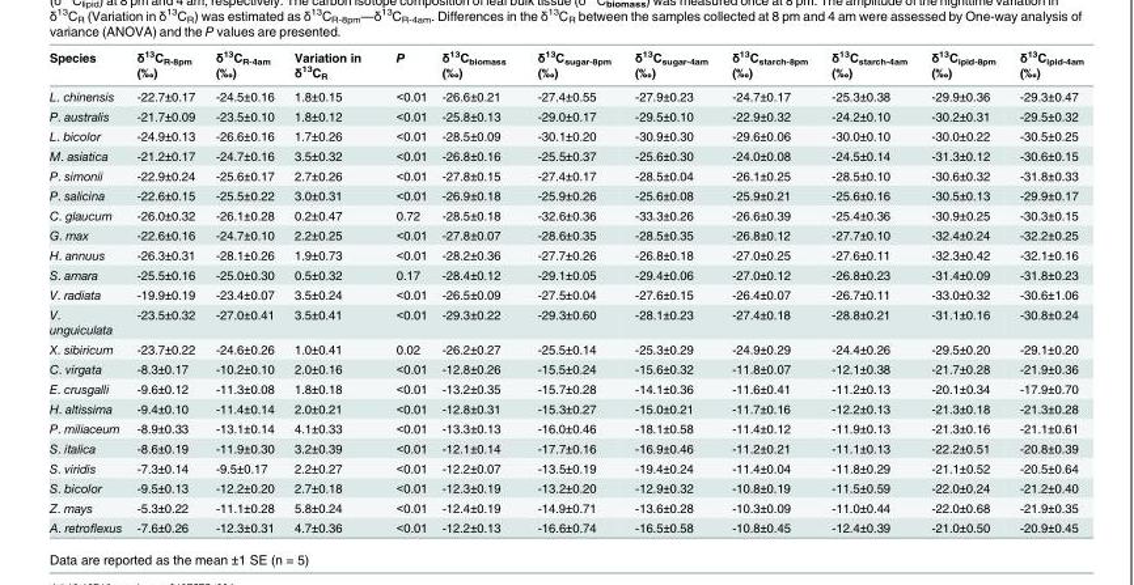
<table><thead><tr><td>Species</td><td>δ<sup>13</sup>C<sub>R-8pm</sub> (‰)</td><td>δ<sup>13</sup>C<sub>R-4am</sub> (‰)</td><td>Variation in δ<sup>13</sup>C<sub>R</sub></td><td>P</td><td>δ<sup>13</sup>C<sub>biomass</sub> (‰)</td><td>δ<sup>13</sup>C<sub>sugar-8pm</sub> (‰)</td><td>δ<sup>13</sup>C<sub>sugar-4am</sub> (‰)</td><td>δ<sup>13</sup>C<sub>starch-8pm</sub> (‰)</td><td>δ<sup>13</sup>C<sub>starch-4am</sub> (‰)</td><td>δ<sup>13</sup>C<sub>ipid-8pm</sub> (‰)</td><td>δ<sup>13</sup>C<sub>ipid-4am</sub> (‰)</td></tr></thead><tbody><tr><td>L. chinensis</td><td>-22.7±0.17</td><td>-24.5±0.16</td><td>1.8±0.15</td><td>&lt;0.01</td><td>-26.6±0.21</td><td>-27.4±0.55</td><td>-27.9±0.23</td><td>-24.7±0.17</td><td>-25.3±0.38</td><td>-29.9±0.36</td><td>-29.3±0.47</td></tr><tr><td>P. australis</td><td>-21.7±0.09</td><td>-23.5±0.10</td><td>1.8±0.12</td><td>&lt;0.01</td><td>-25.8±0.13</td><td>-29.0±0.17</td><td>-29.5±0.10</td><td>-22.9±0.32</td><td>-24.2±0.10</td><td>-30.2±0.31</td><td>-29.5±0.32</td></tr><tr><td>L. bicolor</td><td>-24.9±0.13</td><td>-26.6±0.16</td><td>1.7±0.26</td><td>&lt;0.01</td><td>-28.5±0.09</td><td>-30.1±0.20</td><td>-30.9±0.30</td><td>-29.6±0.06</td><td>-30.0±0.10</td><td>-30.0±0.22</td><td>-30.5±0.25</td></tr><tr><td>M. asiatica</td><td>-21.2±0.17</td><td>-24.7±0.16</td><td>3.5±0.32</td><td>&lt;0.01</td><td>-26.8±0.16</td><td>-25.5±0.37</td><td>-25.6±0.30</td><td>-24.0±0.08</td><td>-24.5±0.14</td><td>-31.3±0.12</td><td>-30.6±0.15</td></tr><tr><td>P. simonii</td><td>-22.9±0.24</td><td>-25.6±0.17</td><td>2.7±0.26</td><td>&lt;0.01</td><td>-27.8±0.15</td><td>-27.4±0.17</td><td>-28.5±0.04</td><td>-26.1±0.25</td><td>-28.5±0.10</td><td>-30.6±0.32</td><td>-31.8±0.33</td></tr><tr><td>P. salicina</td><td>-22.6±0.15</td><td>-25.5±0.22</td><td>3.0±0.31</td><td>&lt;0.01</td><td>-26.9±0.18</td><td>-25.9±0.26</td><td>-25.6±0.08</td><td>-25.9±0.21</td><td>-25.6±0.16</td><td>-30.5±0.13</td><td>-29.9±0.17</td></tr><tr><td>C. glaucum</td><td>-26.0±0.32</td><td>-26.1±0.28</td><td>0.2±0.47</td><td>0.72</td><td>-28.5±0.18</td><td>-32.6±0.36</td><td>-33.3±0.26</td><td>-26.6±0.39</td><td>-25.4±0.36</td><td>-30.9±0.25</td><td>-30.3±0.15</td></tr><tr><td>G. max</td><td>-22.6±0.16</td><td>-24.7±0.10</td><td>2.2±0.25</td><td>&lt;0.01</td><td>-27.8±0.07</td><td>-28.6±0.35</td><td>-28.5±0.35</td><td>-26.8±0.12</td><td>-27.7±0.10</td><td>-32.4±0.24</td><td>-32.2±0.25</td></tr><tr><td>H. annuus</td><td>-26.3±0.31</td><td>-28.1±0.26</td><td>1.9±0.73</td><td>&lt;0.01</td><td>-28.2±0.36</td><td>-27.7±0.26</td><td>-26.8±0.18</td><td>-27.0±0.25</td><td>-27.6±0.11</td><td>-32.3±0.42</td><td>-32.1±0.16</td></tr><tr><td>S. amara</td><td>-25.5±0.16</td><td>-25.0±0.30</td><td>0.5±0.32</td><td>0.17</td><td>-28.4±0.12</td><td>-29.1±0.05</td><td>-29.4±0.06</td><td>-27.0±0.12</td><td>-26.8±0.23</td><td>-31.4±0.09</td><td>-31.8±0.23</td></tr><tr><td>V. radiata</td><td>-19.9±0.19</td><td>-23.4±0.07</td><td>3.5±0.24</td><td>&lt;0.01</td><td>-26.5±0.09</td><td>-27.5±0.04</td><td>-27.6±0.15</td><td>-26.4±0.07</td><td>-26.7±0.11</td><td>-33.0±0.32</td><td>-30.6±1.06</td></tr><tr><td>V. unguiculata</td><td>-23.5±0.32</td><td>-27.0±0.41</td><td>3.5±0.41</td><td>&lt;0.01</td><td>-29.3±0.22</td><td>-29.3±0.60</td><td>-28.1±0.23</td><td>-27.4±0.18</td><td>-28.8±0.21</td><td>-31.1±0.16</td><td>-30.8±0.24</td></tr><tr><td>X. sibiricum</td><td>-23.7±0.22</td><td>-24.6±0.26</td><td>1.0±0.41</td><td>0.02</td><td>-26.2±0.27</td><td>-25.5±0.14</td><td>-25.3±0.29</td><td>-24.9±0.29</td><td>-24.4±0.26</td><td>-29.5±0.20</td><td>-29.1±0.20</td></tr><tr><td>C. virgata</td><td>-8.3±0.17</td><td>-10.2±0.10</td><td>2.0±0.16</td><td>&lt;0.01</td><td>-12.8±0.26</td><td>-15.5±0.24</td><td>-15.6±0.32</td><td>-11.8±0.07</td><td>-12.1±0.38</td><td>-21.7±0.28</td><td>-21.9±0.36</td></tr><tr><td>E. crusgalli</td><td>-9.6±0.12</td><td>-11.3±0.08</td><td>1.8±0.18</td><td>&lt;0.01</td><td>-13.2±0.35</td><td>-15.7±0.28</td><td>-14.1±0.36</td><td>-11.6±0.41</td><td>-11.2±0.13</td><td>-20.1±0.34</td><td>-17.9±0.70</td></tr><tr><td>H. altissima</td><td>-9.4±0.10</td><td>-11.4±0.14</td><td>2.0±0.21</td><td>&lt;0.01</td><td>-12.8±0.31</td><td>-15.3±0.27</td><td>-15.0±0.21</td><td>-11.7±0.16</td><td>-12.2±0.13</td><td>-21.3±0.18</td><td>-21.3±0.28</td></tr><tr><td>P. miliaceum</td><td>-8.9±0.33</td><td>-13.1±0.14</td><td>4.1±0.33</td><td>&lt;0.01</td><td>-13.3±0.13</td><td>-16.0±0.46</td><td>-18.1±0.58</td><td>-11.4±0.12</td><td>-11.9±0.13</td><td>-21.3±0.16</td><td>-21.1±0.61</td></tr><tr><td>S. italica</td><td>-8.6±0.19</td><td>-11.9±0.30</td><td>3.2±0.39</td><td>&lt;0.01</td><td>-12.1±0.14</td><td>-17.7±0.16</td><td>-16.9±0.46</td><td>-11.2±0.21</td><td>-11.1±0.13</td><td>-22.2±0.51</td><td>-20.8±0.39</td></tr><tr><td>S. viridis</td><td>-7.3±0.14</td><td>-9.5±0.17</td><td>2.2±0.27</td><td>&lt;0.01</td><td>-12.2±0.07</td><td>-13.5±0.19</td><td>-19.4±0.24</td><td>-11.4±0.04</td><td>-11.8±0.29</td><td>-21.1±0.52</td><td>-20.5±0.64</td></tr><tr><td>S. bicolor</td><td>-9.5±0.13</td><td>-12.2±0.20</td><td>2.7±0.18</td><td>&lt;0.01</td><td>-12.3±0.19</td><td>-13.2±0.20</td><td>-12.9±0.32</td><td>-10.8±0.19</td><td>-11.5±0.59</td><td>-22.0±0.24</td><td>-21.2±0.40</td></tr><tr><td>Z. mays</td><td>-5.3±0.22</td><td>-11.1±0.28</td><td>5.8±0.24</td><td>&lt;0.01</td><td>-12.4±0.19</td><td>-14.9±0.71</td><td>-13.6±0.28</td><td>-10.3±0.09</td><td>-11.0±0.44</td><td>-22.0±0.68</td><td>-21.9±0.35</td></tr><tr><td>A. retroflexus</td><td>-7.6±0.26</td><td>-12.3±0.31</td><td>4.7±0.36</td><td>&lt;0.01</td><td>-12.2±0.13</td><td>-16.6±0.74</td><td>-16.5±0.58</td><td>-10.8±0.45</td><td>-12.4±0.39</td><td>-21.0±0.50</td><td>-20.9±0.45</td></tr></tbody></table>